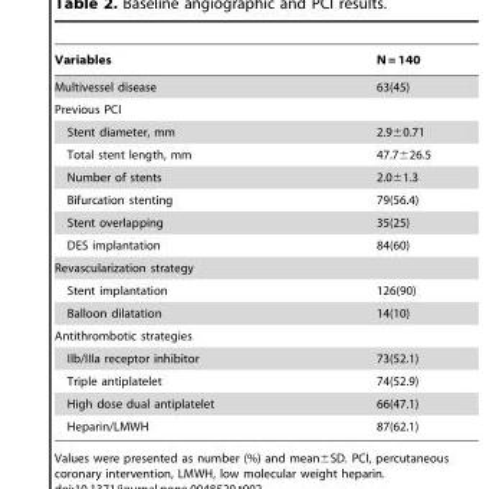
<table><thead><tr><td>Variables</td><td>N = 140</td></tr></thead><tbody><tr><td>Multivessel disease</td><td>63(45)</td></tr><tr><td colspan="2">Previous PCI</td></tr><tr><td>Stent diameter, mm</td><td>2.9±0.71</td></tr><tr><td>Total stent length, mm</td><td>47.7±26.5</td></tr><tr><td>Number of stents</td><td>2.0±1.3</td></tr><tr><td>Bifurcation stenting</td><td>79(56.4)</td></tr><tr><td>Stent overlapping</td><td>35(25)</td></tr><tr><td>DES implantation</td><td>84(60)</td></tr><tr><td colspan="2">Revascularization strategy</td></tr><tr><td>Stent implantation</td><td>126(90)</td></tr><tr><td>Balloon dilatation</td><td>14(10)</td></tr><tr><td colspan="2">Antithrombotic strategies</td></tr><tr><td>IIb/IIIa receptor inhibitor</td><td>73(52.1)</td></tr><tr><td>Triple antiplatelet</td><td>74(52.9)</td></tr><tr><td>High dose dual antiplatelet</td><td>66(47.1)</td></tr><tr><td>Heparin/LMWH</td><td>87(62.1)</td></tr></tbody></table>